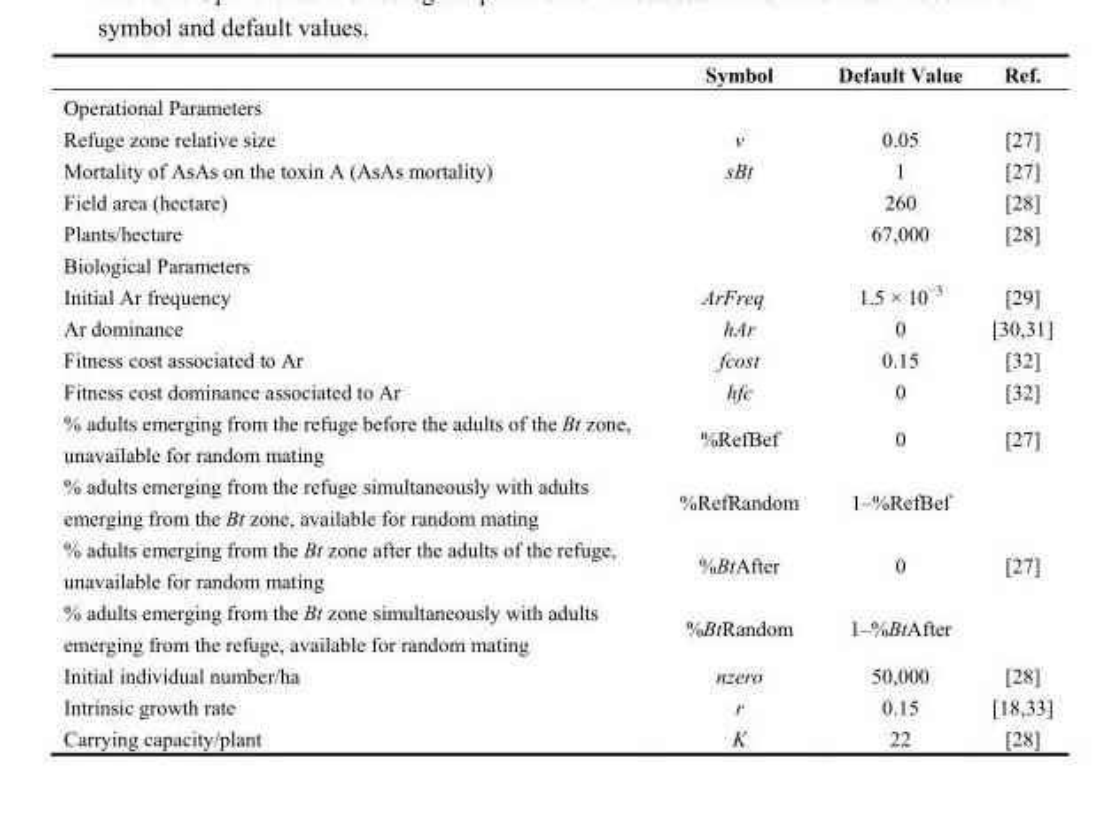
<table><thead><tr><td></td><td>Symbol</td><td>Default Value</td><td>Ref.</td></tr></thead><tbody><tr><td colspan="4">Operational Parameters</td></tr><tr><td>Refuge zone relative size</td><td>v</td><td>0.05</td><td>[27]</td></tr><tr><td>Mortality of AsAs on the toxin A (AsAs mortality)</td><td>sBt</td><td>1</td><td>[27]</td></tr><tr><td>Field area (hectare)</td><td></td><td>260</td><td>[28]</td></tr><tr><td>Plants/hectare</td><td></td><td>67,000</td><td>[28]</td></tr><tr><td colspan="4">Biological Parameters</td></tr><tr><td>Initial Ar frequency</td><td>ArFreq</td><td>1.5 × 10<sup>−3</sup></td><td>[29]</td></tr><tr><td>Ar dominance</td><td>hAr</td><td>0</td><td>[30,31]</td></tr><tr><td>Fitness cost associated to Ar</td><td>fcost</td><td>0.15</td><td>[32]</td></tr><tr><td>Fitness cost dominance associated to Ar</td><td>hfc</td><td>0</td><td>[32]</td></tr><tr><td>% adults emerging from the refuge before the adults of the Bt zone, unavailable for random mating</td><td>%RefBef</td><td>0</td><td>[27]</td></tr><tr><td>% adults emerging from the refuge simultaneously with adults emerging from the Bt zone, available for random mating</td><td>%RefRandom</td><td>1–%RefBef</td><td></td></tr><tr><td>% adults emerging from the Bt zone after the adults of the refuge, unavailable for random mating</td><td>%BtAfter</td><td>0</td><td>[27]</td></tr><tr><td>% adults emerging from the Bt zone simultaneously with adults emerging from the refuge, available for random mating</td><td>%BtRandom</td><td>1–%BtAfter</td><td></td></tr><tr><td>Initial individual number/ha</td><td>nzero</td><td>50,000</td><td>[28]</td></tr><tr><td>Intrinsic growth rate</td><td>r</td><td>0.15</td><td>[18,33]</td></tr><tr><td>Carrying capacity/plant</td><td>K</td><td>22</td><td>[28]</td></tr></tbody></table>